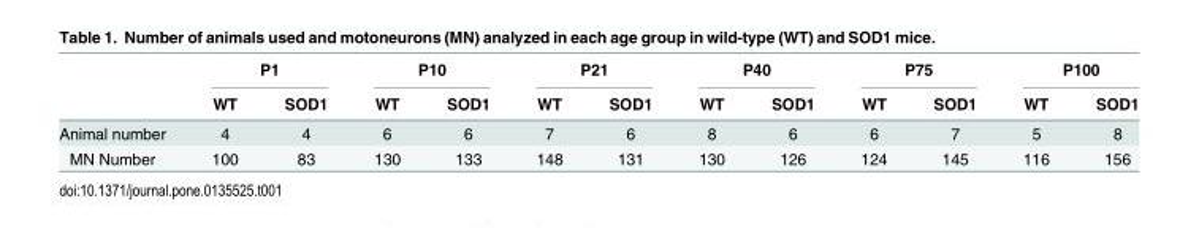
<table><thead><tr><td rowspan="2"></td><td colspan="2">P1</td><td colspan="2">P10</td><td colspan="2">P21</td><td colspan="2">P40</td><td colspan="2">P75</td><td colspan="2">P100</td></tr><tr><td>WT</td><td>SOD1</td><td>WT</td><td>SOD1</td><td>WT</td><td>SOD1</td><td>WT</td><td>SOD1</td><td>WT</td><td>SOD1</td><td>WT</td><td>SOD1</td></tr></thead><tbody><tr><td>Animal number</td><td>4</td><td>4</td><td>6</td><td>6</td><td>7</td><td>6</td><td>8</td><td>6</td><td>6</td><td>7</td><td>5</td><td>8</td></tr><tr><td>MN Number</td><td>100</td><td>83</td><td>130</td><td>133</td><td>148</td><td>131</td><td>130</td><td>126</td><td>124</td><td>145</td><td>116</td><td>156</td></tr></tbody></table>